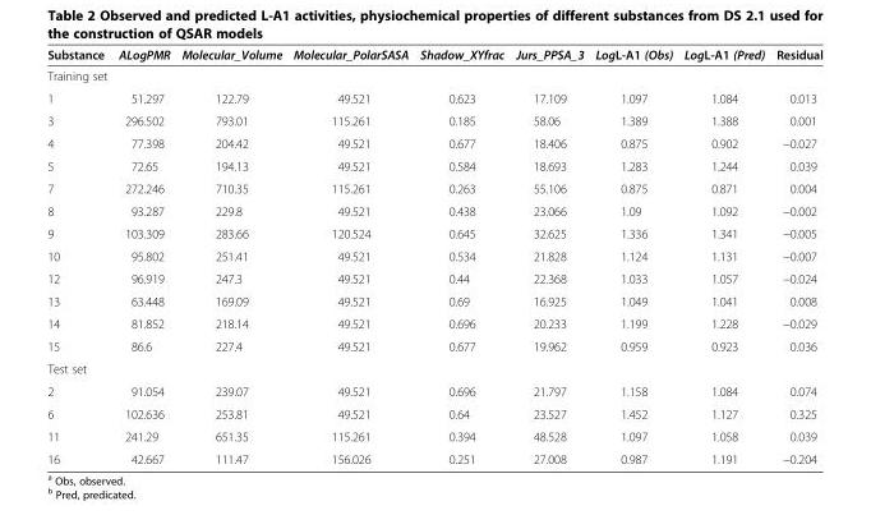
<table><thead><tr><td>Substance</td><td>ALogPMR</td><td>Molecular_Volume</td><td>Molecular_PolarSASA</td><td>Shadow_XYfrac</td><td>Jurs_PPSA_3</td><td>LogL-A1 (Obs)</td><td>LogL-A1 (Pred)</td><td>Residual</td></tr></thead><tbody><tr><td colspan="9">Training set</td></tr><tr><td>1</td><td>51.297</td><td>122.79</td><td>49.521</td><td>0.623</td><td>17.109</td><td>1.097</td><td>1.084</td><td>0.013</td></tr><tr><td>3</td><td>296.502</td><td>793.01</td><td>115.261</td><td>0.185</td><td>58.06</td><td>1.389</td><td>1.388</td><td>0.001</td></tr><tr><td>4</td><td>77.398</td><td>204.42</td><td>49.521</td><td>0.677</td><td>18.406</td><td>0.875</td><td>0.902</td><td>−0.027</td></tr><tr><td>5</td><td>72.65</td><td>194.13</td><td>49.521</td><td>0.584</td><td>18.693</td><td>1.283</td><td>1.244</td><td>0.039</td></tr><tr><td>7</td><td>272.246</td><td>710.35</td><td>115.261</td><td>0.263</td><td>55.106</td><td>0.875</td><td>0.871</td><td>0.004</td></tr><tr><td>8</td><td>93.287</td><td>229.8</td><td>49.521</td><td>0.438</td><td>23.066</td><td>1.09</td><td>1.092</td><td>−0.002</td></tr><tr><td>9</td><td>103.309</td><td>283.66</td><td>120.524</td><td>0.645</td><td>32.625</td><td>1.336</td><td>1.341</td><td>−0.005</td></tr><tr><td>10</td><td>95.802</td><td>251.41</td><td>49.521</td><td>0.534</td><td>21.828</td><td>1.124</td><td>1.131</td><td>−0.007</td></tr><tr><td>12</td><td>96.919</td><td>247.3</td><td>49.521</td><td>0.44</td><td>22.368</td><td>1.033</td><td>1.057</td><td>−0.024</td></tr><tr><td>13</td><td>63.448</td><td>169.09</td><td>49.521</td><td>0.69</td><td>16.925</td><td>1.049</td><td>1.041</td><td>0.008</td></tr><tr><td>14</td><td>81.852</td><td>218.14</td><td>49.521</td><td>0.696</td><td>20.233</td><td>1.199</td><td>1.228</td><td>−0.029</td></tr><tr><td>15</td><td>86.6</td><td>227.4</td><td>49.521</td><td>0.677</td><td>19.962</td><td>0.959</td><td>0.923</td><td>0.036</td></tr><tr><td colspan="9">Test set</td></tr><tr><td>2</td><td>91.054</td><td>239.07</td><td>49.521</td><td>0.696</td><td>21.797</td><td>1.158</td><td>1.084</td><td>0.074</td></tr><tr><td>6</td><td>102.636</td><td>253.81</td><td>49.521</td><td>0.64</td><td>23.527</td><td>1.452</td><td>1.127</td><td>0.325</td></tr><tr><td>11</td><td>241.29</td><td>651.35</td><td>115.261</td><td>0.394</td><td>48.528</td><td>1.097</td><td>1.058</td><td>0.039</td></tr><tr><td>16</td><td>42.667</td><td>111.47</td><td>156.026</td><td>0.251</td><td>27.008</td><td>0.987</td><td>1.191</td><td>−0.204</td></tr></tbody></table>